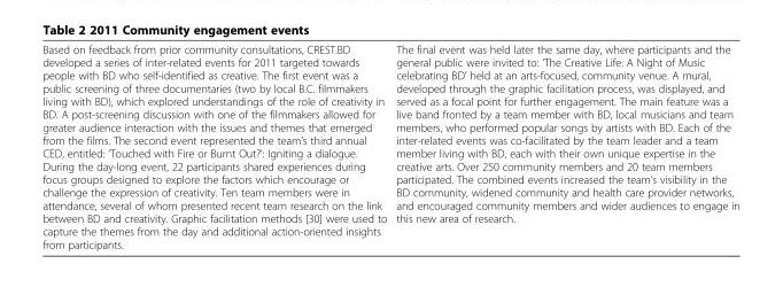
<table><tbody><tr><td>Based on feedback from prior community consultations, CREST.BD developed a series of inter-related events for 2011 targeted towards people with BD who self-identified as creative. The first event was a public screening of three documentaries (two by local B.C. filmmakers living with BD), which explored understandings of the role of creativity in BD. A post-screening discussion with one of the filmmakers allowed for greater audience interaction with the issues and themes that emerged from the films. The second event represented the team’s third annual CED, entitled: ‘Touched with Fire or Burnt Out?’: Igniting a dialogue. During the day-long event, 22 participants shared experiences during focus groups designed to explore the factors which encourage or challenge the expression of creativity. Ten team members were in attendance, several of whom presented recent team research on the link between BD and creativity. Graphic facilitation methods [30] were used to capture the themes from the day and additional action-oriented insights from participants.</td><td>The final event was held later the same day, where participants and the general public were invited to: ‘The Creative Life: A Night of Music celebrating BD’ held at an arts-focused, community venue. A mural, developed through the graphic facilitation process, was displayed, and served as a focal point for further engagement. The main feature was a live band fronted by a team member with BD, local musicians and team members, who performed popular songs by artists with BD. Each of the inter-related events was co-facilitated by the team leader and a team member living with BD, each with their own unique expertise in the creative arts. Over 250 community members and 20 team members participated. The combined events increased the team’s visibility in the BD community, widened community and health care provider networks, and encouraged community members and wider audiences to engage in this new area of research.</td></tr></tbody></table>